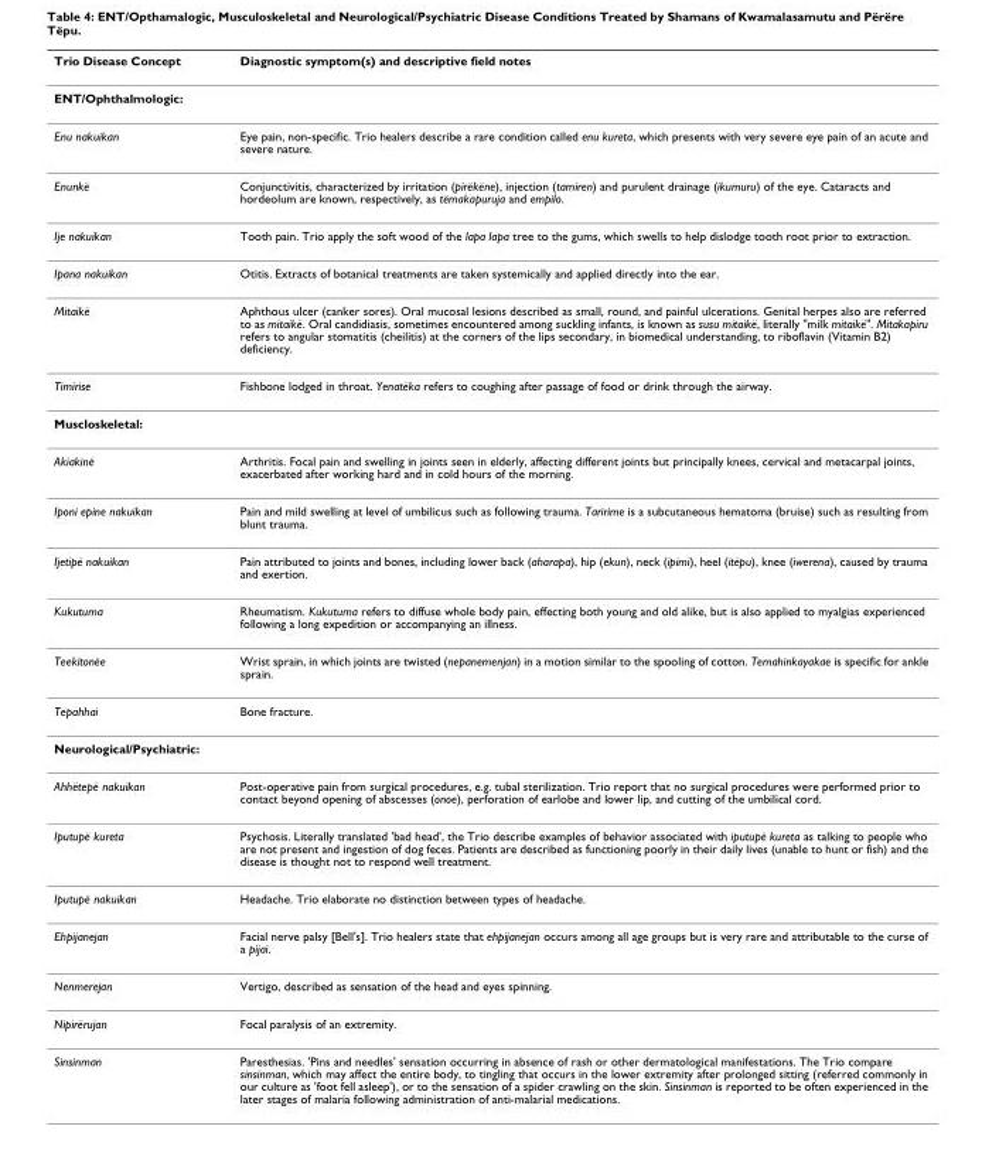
<table><thead><tr><td>Trio Disease Concept</td><td>Diagnostic symptom(s) and descriptive field notes</td></tr></thead><tbody><tr><td colspan="2">ENT/Ophthalmologic:</td></tr><tr><td>Enu nakuikan</td><td>Eye pain, non-specific. Trio healers describe a rare condition called enu kureta, which presents with very severe eye pain of an acute and severe nature.</td></tr><tr><td>Enunkë</td><td>Conjunctivitis, characterized by irritation (pirëkëne), injection (tamiren) and purulent drainage (ikumuru) of the eye. Cataracts and hordeolum are known, respectively, as tëmakapuruja and empilo.</td></tr><tr><td>Ije nakuikan</td><td>Tooth pain. Trio apply the soft wood of the lapa lapa tree to the gums, which swells to help dislodge tooth root prior to extraction.</td></tr><tr><td>Ipana nakuikan</td><td>Otitis. Extracts of botanical treatments are taken systemically and applied directly into the ear.</td></tr><tr><td>Mitaikë</td><td>Aphthous ulcer (canker sores). Oral mucosal lesions described as small, round, and painful ulcerations. Genital herpes also are referred to as mitaikë. Oral candidiasis, sometimes encountered among suckling infants, is known as susu mitaikë, literally &quot;milk mitaikë&quot;. Mitakapiru refers to angular stomatitis (cheilitis) at the corners of the lips secondary, in biomedical understanding, to riboflavin (Vitamin B2) deficiency.</td></tr><tr><td>Timirise</td><td>Fishbone lodged in throat. Yenatëka refers to coughing after passage of food or drink through the airway.</td></tr><tr><td colspan="2">Muscloskeletal:</td></tr><tr><td>Akiakinë</td><td>Arthritis. Focal pain and swelling in joints seen in elderly, affecting different joints but principally knees, cervical and metacarpal joints, exacerbated after working hard and in cold hours of the morning.</td></tr><tr><td>Iponi epine nakuikan</td><td>Pain and mild swelling at level of umbilicus such as following trauma. Taririme is a subcutaneous hematoma (bruise) such as resulting from blunt trauma.</td></tr><tr><td>Ijetipë nakuikan</td><td>Pain attributed to joints and bones, including lower back (aharapa), hip (ekun), neck (ipimi), heel (itëpu), knee (iwerena), caused by trauma and exertion.</td></tr><tr><td>Kukutuma</td><td>Rheumatism. Kukutuma refers to diffuse whole body pain, effecting both young and old alike, but is also applied to myalgias experienced following a long expedition or accompanying an illness.</td></tr><tr><td>Teekitonëe</td><td>Wrist sprain, in which joints are twisted (nepanemenjan) in a motion similar to the spooling of cotton. Temahinkayakae is specific for ankle sprain.</td></tr><tr><td>Tepahhai</td><td>Bone fracture.</td></tr><tr><td colspan="2">Neurological/Psychiatric:</td></tr><tr><td>Ahhëtepë nakuikan</td><td>Post-operative pain from surgical procedures, e.g. tubal sterilization. Trio report that no surgical procedures were performed prior to contact beyond opening of abscesses (onoe), perforation of earlobe and lower lip, and cutting of the umbilical cord.</td></tr><tr><td>Iputupë kureta</td><td>Psychosis. Literally translated &#x27;bad head&#x27;, the Trio describe examples of behavior associated with iputupë kureta as talking to people who are not present and ingestion of dog feces. Patients are described as functioning poorly in their daily lives (unable to hunt or fish) and the disease is thought not to respond well treatment.</td></tr><tr><td>Iputupë nakuikan</td><td>Headache. Trio elaborate no distinction between types of headache.</td></tr><tr><td>Ehpijanejan</td><td>Facial nerve palsy [Bell&#x27;s]. Trio healers state that ehpijanejan occurs among all age groups but is very rare and attributable to the curse of a pijai.</td></tr><tr><td>Nenmerejan</td><td>Vertigo, described as sensation of the head and eyes spinning.</td></tr><tr><td>Nipirërujan</td><td>Focal paralysis of an extremity.</td></tr><tr><td>Sinsinman</td><td>Paresthesias. &#x27;Pins and needles&#x27; sensation occurring in absence of rash or other dermatological manifestations. The Trio compare sinsinman, which may affect the entire body, to tingling that occurs in the lower extremity after prolonged sitting (referred commonly in our culture as &#x27;foot fell asleep&#x27;), or to the sensation of a spider crawling on the skin. Sinsinman is reported to be often experienced in the later stages of malaria following administration of anti-malarial medications.</td></tr></tbody></table>